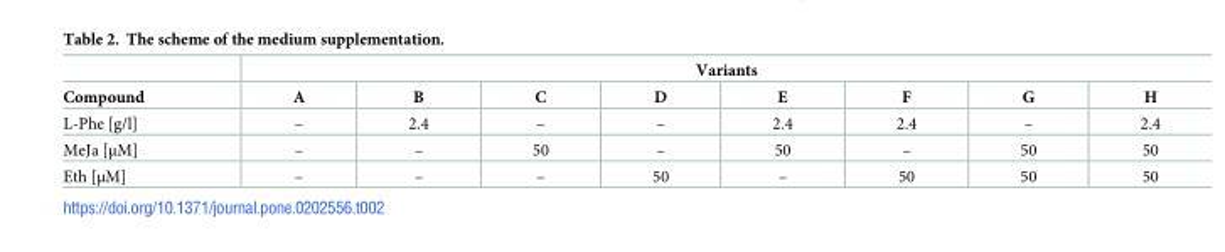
<table><thead><tr><td rowspan="2">Compound</td><td colspan="8">Variants</td></tr><tr><td>A</td><td>B</td><td>C</td><td>D</td><td>E</td><td>F</td><td>G</td><td>H</td></tr></thead><tbody><tr><td>L-Phe [g/l]</td><td>–</td><td>2.4</td><td>–</td><td>–</td><td>2.4</td><td>2.4</td><td>–</td><td>2.4</td></tr><tr><td>MeJa [μM]</td><td>–</td><td>–</td><td>50</td><td>–</td><td>50</td><td>–</td><td>50</td><td>50</td></tr><tr><td>Eth [μM]</td><td>–</td><td>–</td><td>–</td><td>50</td><td>–</td><td>50</td><td>50</td><td>50</td></tr></tbody></table>